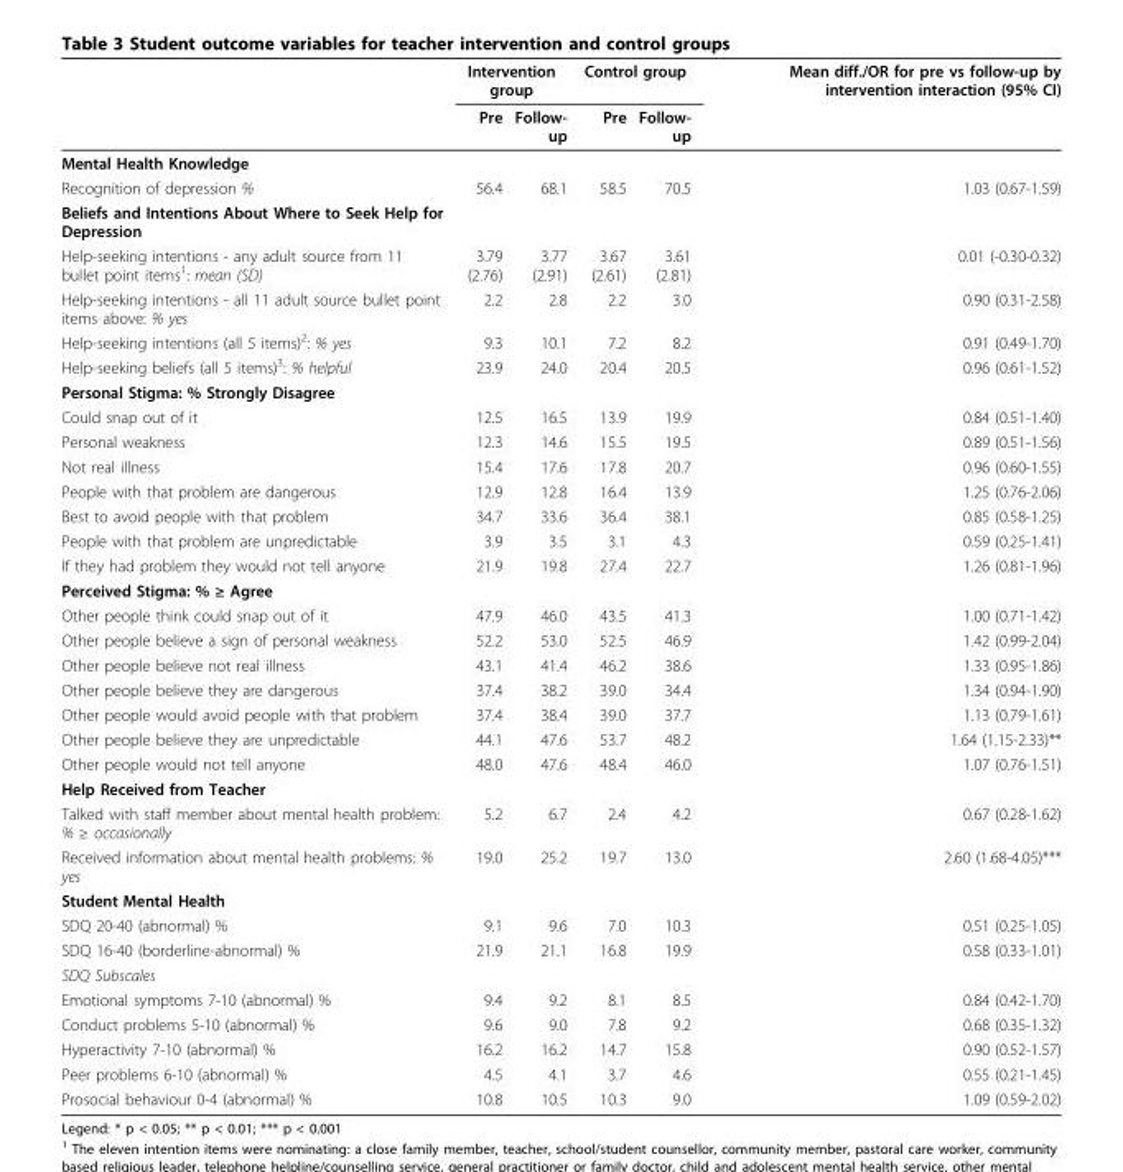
<table><thead><tr><td rowspan="2"></td><td colspan="2">Intervention group</td><td colspan="2">Control group</td><td rowspan="2">Mean diff./OR for pre vs follow-up by intervention interaction (95% CI)</td></tr><tr><td>Pre</td><td>Follow- up</td><td>Pre</td><td>Follow- up</td></tr></thead><tbody><tr><td colspan="6">Mental Health Knowledge</td></tr><tr><td>Recognition of depression %</td><td>56.4</td><td>68.1</td><td>58.5</td><td>70.5</td><td>1.03 (0.67-1.59)</td></tr><tr><td colspan="6">Beliefs and Intentions About Where to Seek Help for Depression</td></tr><tr><td>Help-seeking intentions - any adult source from 11 bullet point items<sup>1</sup>: mean (SD)</td><td>3.79 (2.76)</td><td>3.77 (2.91)</td><td>3.67 (2.61)</td><td>3.61 (2.81)</td><td>0.01 (-0.30-0.32)</td></tr><tr><td>Help-seeking intentions - all 11 adult source bullet point items above: % yes</td><td>2.2</td><td>2.8</td><td>2.2</td><td>3.0</td><td>0.90 (0.31-2.58)</td></tr><tr><td>Help-seeking intentions (all 5 items)<sup>2</sup>: % yes</td><td>9.3</td><td>10.1</td><td>7.2</td><td>8.2</td><td>0.91 (0.49-1.70)</td></tr><tr><td>Help-seeking beliefs (all 5 items)<sup>3</sup>: % helpful</td><td>23.9</td><td>24.0</td><td>20.4</td><td>20.5</td><td>0.96 (0.61-1.52)</td></tr><tr><td colspan="6">Personal Stigma: % Strongly Disagree</td></tr><tr><td>Could snap out of it</td><td>12.5</td><td>16.5</td><td>13.9</td><td>19.9</td><td>0.84 (0.51-1.40)</td></tr><tr><td>Personal weakness</td><td>12.3</td><td>14.6</td><td>15.5</td><td>19.5</td><td>0.89 (0.51-1.56)</td></tr><tr><td>Not real illness</td><td>15.4</td><td>17.6</td><td>17.8</td><td>20.7</td><td>0.96 (0.60-1.55)</td></tr><tr><td>People with that problem are dangerous</td><td>12.9</td><td>12.8</td><td>16.4</td><td>13.9</td><td>1.25 (0.76-2.06)</td></tr><tr><td>Best to avoid people with that problem</td><td>34.7</td><td>33.6</td><td>36.4</td><td>38.1</td><td>0.85 (0.58-1.25)</td></tr><tr><td>People with that problem are unpredictable</td><td>3.9</td><td>3.5</td><td>3.1</td><td>4.3</td><td>0.59 (0.25-1.41)</td></tr><tr><td>If they had problem they would not tell anyone</td><td>21.9</td><td>19.8</td><td>27.4</td><td>22.7</td><td>1.26 (0.81-1.96)</td></tr><tr><td colspan="6">Perceived Stigma: % ≥ Agree</td></tr><tr><td>Other people think could snap out of it</td><td>47.9</td><td>46.0</td><td>43.5</td><td>41.3</td><td>1.00 (0.71-1.42)</td></tr><tr><td>Other people believe a sign of personal weakness</td><td>52.2</td><td>53.0</td><td>52.5</td><td>46.9</td><td>1.42 (0.99-2.04)</td></tr><tr><td>Other people believe not real illness</td><td>43.1</td><td>41.4</td><td>46.2</td><td>38.6</td><td>1.33 (0.95-1.86)</td></tr><tr><td>Other people believe they are dangerous</td><td>37.4</td><td>38.2</td><td>39.0</td><td>34.4</td><td>1.34 (0.94-1.90)</td></tr><tr><td>Other people would avoid people with that problem</td><td>37.4</td><td>38.4</td><td>39.0</td><td>37.7</td><td>1.13 (0.79-1.61)</td></tr><tr><td>Other people believe they are unpredictable</td><td>44.1</td><td>47.6</td><td>53.7</td><td>48.2</td><td>1.64 (1.15-2.33)**</td></tr><tr><td>Other people would not tell anyone</td><td>48.0</td><td>47.6</td><td>48.4</td><td>46.0</td><td>1.07 (0.76-1.51)</td></tr><tr><td colspan="6">Help Received from Teacher</td></tr><tr><td>Talked with staff member about mental health problem: % ≥ occasionally</td><td>5.2</td><td>6.7</td><td>2.4</td><td>4.2</td><td>0.67 (0.28-1.62)</td></tr><tr><td>Received information about mental health problems: % yes</td><td>19.0</td><td>25.2</td><td>19.7</td><td>13.0</td><td>2.60 (1.68-4.05)***</td></tr><tr><td colspan="6">Student Mental Health</td></tr><tr><td>SDQ 20-40 (abnormal) %</td><td>9.1</td><td>9.6</td><td>7.0</td><td>10.3</td><td>0.51 (0.25-1.05)</td></tr><tr><td>SDQ 16-40 (borderline-abnormal) %</td><td>21.9</td><td>21.1</td><td>16.8</td><td>19.9</td><td>0.58 (0.33-1.01)</td></tr><tr><td colspan="6">SDQ Subscales</td></tr><tr><td>Emotional symptoms 7-10 (abnormal) %</td><td>9.4</td><td>9.2</td><td>8.1</td><td>8.5</td><td>0.84 (0.42-1.70)</td></tr><tr><td>Conduct problems 5-10 (abnormal) %</td><td>9.6</td><td>9.0</td><td>7.8</td><td>9.2</td><td>0.68 (0.35-1.32)</td></tr><tr><td>Hyperactivity 7-10 (abnormal) %</td><td>16.2</td><td>16.2</td><td>14.7</td><td>15.8</td><td>0.90 (0.52-1.57)</td></tr><tr><td>Peer problems 6-10 (abnormal) %</td><td>4.5</td><td>4.1</td><td>3.7</td><td>4.6</td><td>0.55 (0.21-1.45)</td></tr><tr><td>Prosocial behaviour 0-4 (abnormal) %</td><td>10.8</td><td>10.5</td><td>10.3</td><td>9.0</td><td>1.09 (0.59-2.02)</td></tr></tbody></table>